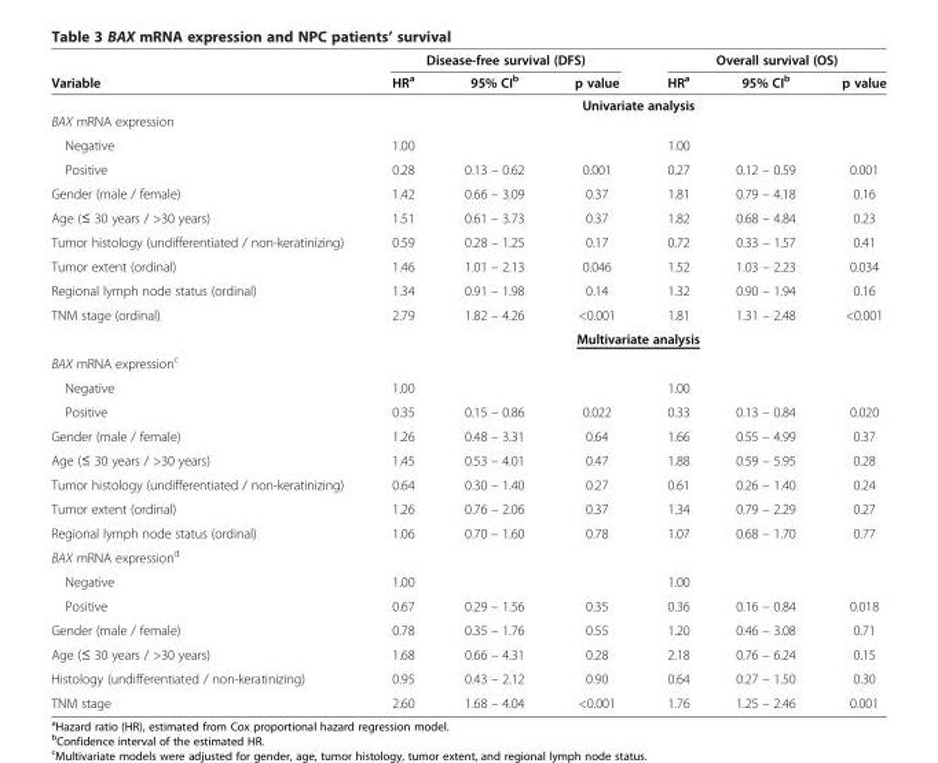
<table><thead><tr><td rowspan="3">Variable</td><td colspan="3">Disease-free survival (DFS)</td><td colspan="3">Overall survival (OS)</td></tr><tr><td>HR<sup>a</sup></td><td>95% CI<sup>b</sup></td><td>p value</td><td>HR<sup>a</sup></td><td>95% CI<sup>b</sup></td><td>p value</td></tr><tr><td colspan="6">Univariate analysis</td></tr></thead><tbody><tr><td colspan="7">BAX mRNA expression</td></tr><tr><td>Negative</td><td>1.00</td><td></td><td></td><td>1.00</td><td></td><td></td></tr><tr><td>Positive</td><td>0.28</td><td>0.13 – 0.62</td><td>0.001</td><td>0.27</td><td>0.12 – 0.59</td><td>0.001</td></tr><tr><td>Gender (male / female)</td><td>1.42</td><td>0.66 – 3.09</td><td>0.37</td><td>1.81</td><td>0.79 – 4.18</td><td>0.16</td></tr><tr><td>Age (≤ 30 years / &gt;30 years)</td><td>1.51</td><td>0.61 – 3.73</td><td>0.37</td><td>1.82</td><td>0.68 – 4.84</td><td>0.23</td></tr><tr><td>Tumor histology (undifferentiated / non-keratinizing)</td><td>0.59</td><td>0.28 – 1.25</td><td>0.17</td><td>0.72</td><td>0.33 – 1.57</td><td>0.41</td></tr><tr><td>Tumor extent (ordinal)</td><td>1.46</td><td>1.01 – 2.13</td><td>0.046</td><td>1.52</td><td>1.03 – 2.23</td><td>0.034</td></tr><tr><td>Regional lymph node status (ordinal)</td><td>1.34</td><td>0.91 – 1.98</td><td>0.14</td><td>1.32</td><td>0.90 – 1.94</td><td>0.16</td></tr><tr><td rowspan="2">TNM stage (ordinal)</td><td>2.79</td><td>1.82 – 4.26</td><td>&lt;0.001</td><td>1.81</td><td>1.31 – 2.48</td><td>&lt;0.001</td></tr><tr><td colspan="6">Multivariate analysis</td></tr><tr><td colspan="7">BAX mRNA expression<sup>c</sup></td></tr><tr><td>Negative</td><td>1.00</td><td></td><td></td><td>1.00</td><td></td><td></td></tr><tr><td>Positive</td><td>0.35</td><td>0.15 – 0.86</td><td>0.022</td><td>0.33</td><td>0.13 – 0.84</td><td>0.020</td></tr><tr><td>Gender (male / female)</td><td>1.26</td><td>0.48 – 3.31</td><td>0.64</td><td>1.66</td><td>0.55 – 4.99</td><td>0.37</td></tr><tr><td>Age (≤ 30 years / &gt;30 years)</td><td>1.45</td><td>0.53 – 4.01</td><td>0.47</td><td>1.88</td><td>0.59 – 5.95</td><td>0.28</td></tr><tr><td>Tumor histology (undifferentiated / non-keratinizing)</td><td>0.64</td><td>0.30 – 1.40</td><td>0.27</td><td>0.61</td><td>0.26 – 1.40</td><td>0.24</td></tr><tr><td>Tumor extent (ordinal)</td><td>1.26</td><td>0.76 – 2.06</td><td>0.37</td><td>1.34</td><td>0.79 – 2.29</td><td>0.27</td></tr><tr><td>Regional lymph node status (ordinal)</td><td>1.06</td><td>0.70 – 1.60</td><td>0.78</td><td>1.07</td><td>0.68 – 1.70</td><td>0.77</td></tr><tr><td colspan="7">BAX mRNA expression<sup>d</sup></td></tr><tr><td>Negative</td><td>1.00</td><td></td><td></td><td>1.00</td><td></td><td></td></tr><tr><td>Positive</td><td>0.67</td><td>0.29 – 1.56</td><td>0.35</td><td>0.36</td><td>0.16 – 0.84</td><td>0.018</td></tr><tr><td>Gender (male / female)</td><td>0.78</td><td>0.35 – 1.76</td><td>0.55</td><td>1.20</td><td>0.46 – 3.08</td><td>0.71</td></tr><tr><td>Age (≤ 30 years / &gt;30 years)</td><td>1.68</td><td>0.66 – 4.31</td><td>0.28</td><td>2.18</td><td>0.76 – 6.24</td><td>0.15</td></tr><tr><td>Histology (undifferentiated / non-keratinizing)</td><td>0.95</td><td>0.43 – 2.12</td><td>0.90</td><td>0.64</td><td>0.27 – 1.50</td><td>0.30</td></tr><tr><td>TNM stage</td><td>2.60</td><td>1.68 – 4.04</td><td>&lt;0.001</td><td>1.76</td><td>1.25 – 2.46</td><td>0.001</td></tr></tbody></table>